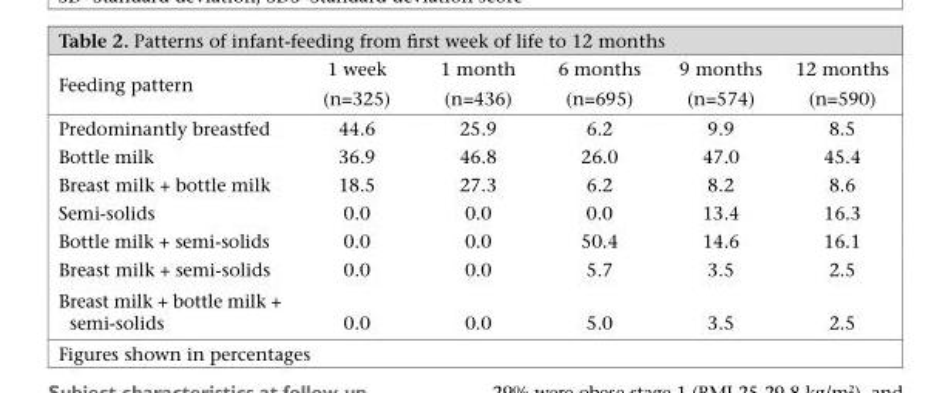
<table><thead><tr><td rowspan="2">Feeding pattern</td><td rowspan="2">1 week (n=325)</td><td rowspan="2">1 month (n=436)</td><td rowspan="2">6 months (n=695)</td><td rowspan="2">9 months (n=574)</td><td rowspan="2">12 months (n=590)</td></tr><tr></tr></thead><tbody><tr><td>Predominantly breastfed</td><td>44.6</td><td>25.9</td><td>6.2</td><td>9.9</td><td>8.5</td></tr><tr><td>Bottle milk</td><td>36.9</td><td>46.8</td><td>26.0</td><td>47.0</td><td>45.4</td></tr><tr><td>Breast milk + bottle milk</td><td>18.5</td><td>27.3</td><td>6.2</td><td>8.2</td><td>8.6</td></tr><tr><td>Semi-solids</td><td>0.0</td><td>0.0</td><td>0.0</td><td>13.4</td><td>16.3</td></tr><tr><td>Bottle milk + semi-solids</td><td>0.0</td><td>0.0</td><td>50.4</td><td>14.6</td><td>16.1</td></tr><tr><td>Breast milk + semi-solids</td><td>0.0</td><td>0.0</td><td>5.7</td><td>3.5</td><td>2.5</td></tr><tr><td>Breast milk + bottle milk + semi-solids</td><td>0.0</td><td>0.0</td><td>5.0</td><td>3.5</td><td>2.5</td></tr></tbody></table>